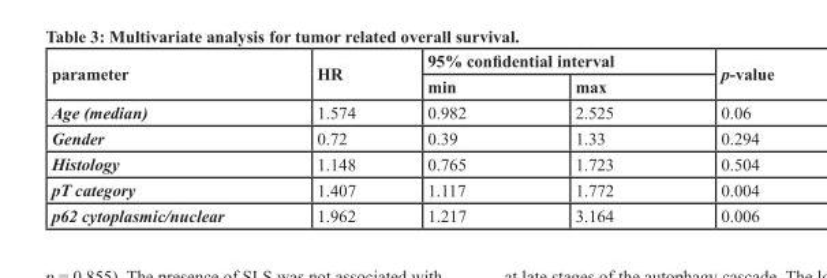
<table><thead><tr><td rowspan="2">parameter</td><td rowspan="2">Hr</td><td colspan="2">95% confidential interval</td><td rowspan="2">p-value</td></tr><tr><td>min</td><td>max</td></tr></thead><tbody><tr><td>Age (median)</td><td>1.574</td><td>0.982</td><td>2.525</td><td>0.06</td></tr><tr><td>Gender</td><td>0.72</td><td>0.39</td><td>1.33</td><td>0.294</td></tr><tr><td>Histology</td><td>1.148</td><td>0.765</td><td>1.723</td><td>0.504</td></tr><tr><td>pT category</td><td>1.407</td><td>1.117</td><td>1.772</td><td>0.004</td></tr><tr><td>p62 cytoplasmic/nuclear</td><td>1.962</td><td>1.217</td><td>3.164</td><td>0.006</td></tr></tbody></table>